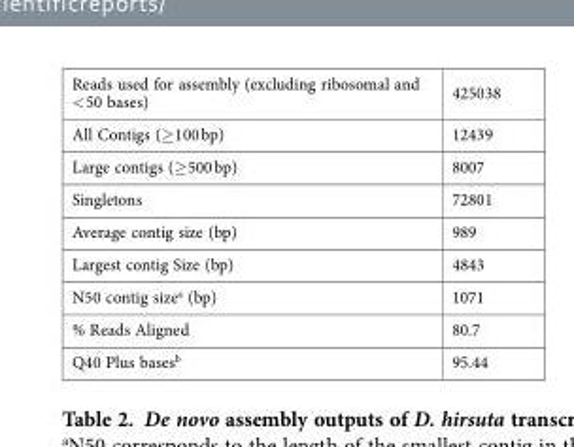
<table><tbody><tr><td>Reads used for assembly (excluding ribosomal and &lt; 50 bases)</td><td>425038</td></tr><tr><td>All Contigs (≥ 100 bp)</td><td>12439</td></tr><tr><td>Large contigs (≥ 500 bp)</td><td>8007</td></tr><tr><td>Singletons</td><td>72801</td></tr><tr><td>Average contig size (bp)</td><td>989</td></tr><tr><td>Largest contig Size (bp)</td><td>4843</td></tr><tr><td>N50 contig size<sup>a</sup> (bp)</td><td>1071</td></tr><tr><td>% Reads Aligned</td><td>80.7</td></tr><tr><td>Q40 Plus bases<sup>b</sup></td><td>95.44</td></tr></tbody></table>